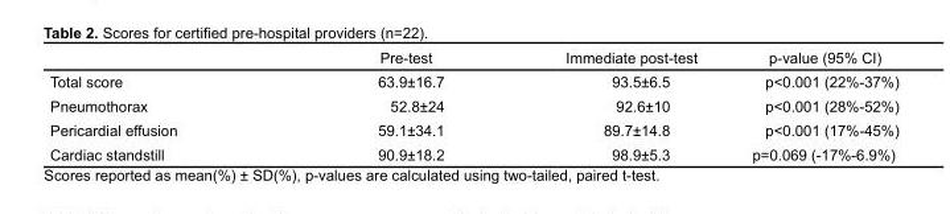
<table><thead><tr><td></td><td>Pre-test</td><td>Immediate post-test</td><td>p-value (95% CI)</td></tr></thead><tbody><tr><td>Total score</td><td>63.9±16.7</td><td>93.5±6.5</td><td>p&lt;0.001 (22%-37%)</td></tr><tr><td>Pneumothorax</td><td>52.8±24</td><td>92.6±10</td><td>p&lt;0.001 (28%-52%)</td></tr><tr><td>Pericardial effusion</td><td>59.1±34.1</td><td>89.7±14.8</td><td>p&lt;0.001 (17%-45%)</td></tr><tr><td>Cardiac standstill</td><td>90.9±18.2</td><td>98.9±5.3</td><td>p=0.069 (-17%-6.9%)</td></tr></tbody></table>